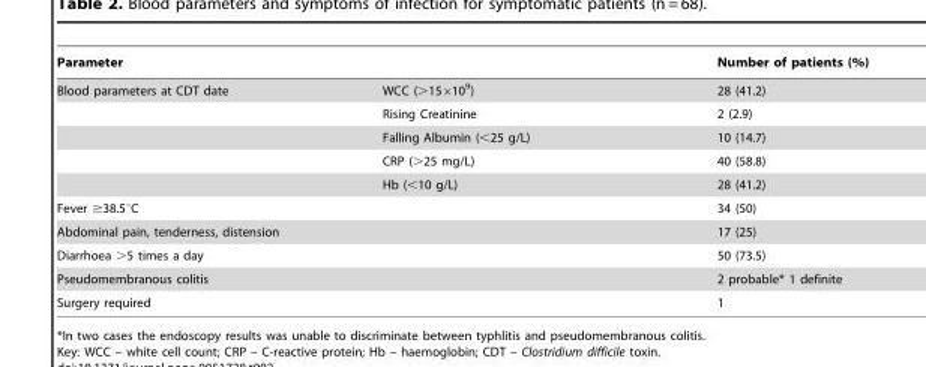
<table><thead><tr><td colspan="2">Parameter</td><td rowspan="2">Number of patients (%) 28 (41.2)</td></tr><tr><td>Blood parameters at CDT date</td><td>WCC (&gt;15×10<sup>9</sup>)</td></tr></thead><tbody><tr><td></td><td>Rising Creatinine</td><td>2 (2.9)</td></tr><tr><td></td><td>Falling Albumin (&lt;25 g/L)</td><td>10 (14.7)</td></tr><tr><td></td><td>CRP (&gt;25 mg/L)</td><td>40 (58.8)</td></tr><tr><td></td><td>Hb (&lt;10 g/L)</td><td>28 (41.2)</td></tr><tr><td colspan="2">Fever ≥38.5°C</td><td>34 (50)</td></tr><tr><td colspan="2">Abdominal pain, tenderness, distension</td><td>17 (25)</td></tr><tr><td colspan="2">Diarrhoea &gt;5 times a day</td><td>50 (73.5)</td></tr><tr><td colspan="2">Pseudomembranous colitis</td><td>2 probable* 1 definite</td></tr><tr><td colspan="2">Surgery required</td><td>1</td></tr></tbody></table>